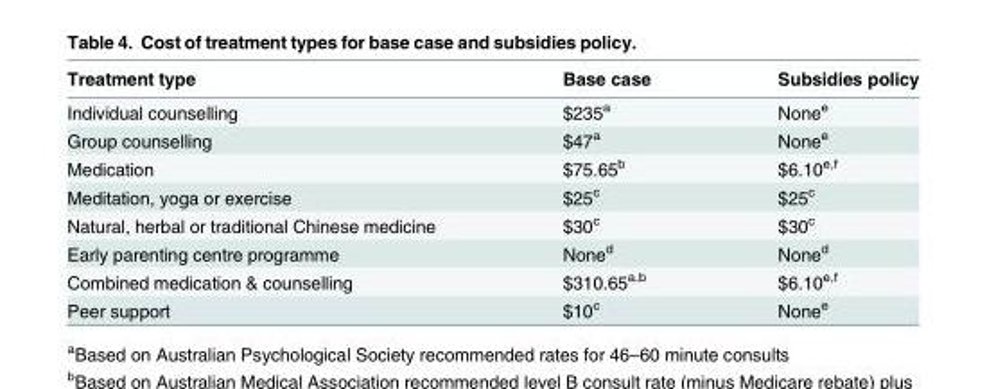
<table><thead><tr><td>Treatment type</td><td>Base case</td><td>Subsidies policy</td></tr></thead><tbody><tr><td>Individual counselling</td><td>$235<sup>a</sup></td><td>None<sup>e</sup></td></tr><tr><td>Group counselling</td><td>$47<sup>a</sup></td><td>None<sup>e</sup></td></tr><tr><td>Medication</td><td>$75.65<sup>b</sup></td><td>$6.10<sup>e,f</sup></td></tr><tr><td>Meditation, yoga or exercise</td><td>$25<sup>c</sup></td><td>$25<sup>c</sup></td></tr><tr><td>Natural, herbal or traditional Chinese medicine</td><td>$30<sup>c</sup></td><td>$30<sup>c</sup></td></tr><tr><td>Early parenting centre programme</td><td>None<sup>d</sup></td><td>None<sup>d</sup></td></tr><tr><td>Combined medication &amp; counselling</td><td>$310.65<sup>a,b</sup></td><td>$6.10<sup>e,f</sup></td></tr><tr><td>Peer support</td><td>$10<sup>c</sup></td><td>None<sup>e</sup></td></tr></tbody></table>